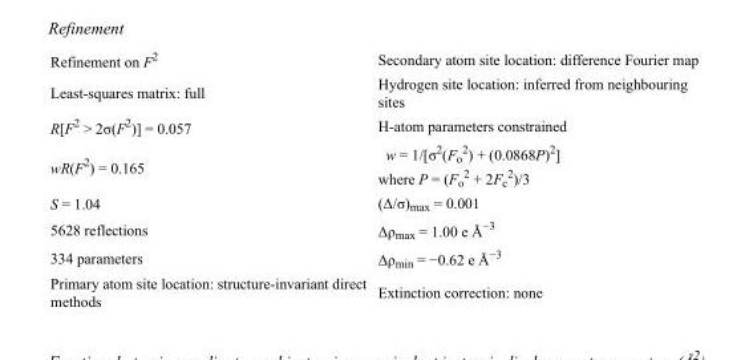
<table><tbody><tr><td>Refinement on F<sup>2</sup></td><td>Secondary atom site location: difference Fourier map</td></tr><tr><td>Least-squares matrix: full</td><td>Hydrogen site location: inferred from neighbouring sites</td></tr><tr><td>R[F<sup>2</sup> &gt; 2σ(F<sup>2</sup>)] = 0.057</td><td>H-atom parameters constrained</td></tr><tr><td>wR(F<sup>2</sup>) = 0.165</td><td>w = 1/[σ<sup>2</sup>(F<sub>o</sub> <sup>2</sup>) + (0.0868P)<sup>2</sup>] where P = (F<sub>o</sub> <sup>2</sup> + 2F<sub>c</sub> <sup>2</sup>)/3</td></tr><tr><td>S = 1.04</td><td>(Δ/σ)<sub>max</sub> = 0.001</td></tr><tr><td>5628 reflections</td><td>Δρ<sub>max</sub> = 1.00 e Å<sup>−3</sup></td></tr><tr><td>334 parameters</td><td>Δρ<sub>min</sub> = −0.62 e Å<sup>−3</sup></td></tr><tr><td>Primary atom site location: structure-invariant direct methods</td><td>Extinction correction: none</td></tr></tbody></table>